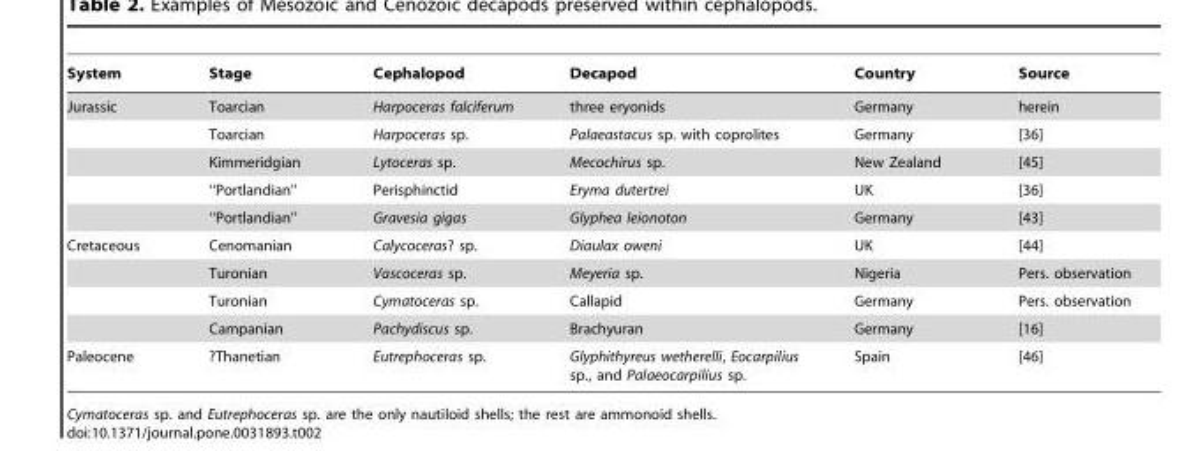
<table><thead><tr><td>System</td><td>Stage</td><td>Cephalopod</td><td>Decapod</td><td>Country</td><td>Source</td></tr></thead><tbody><tr><td rowspan="5">Jurassic</td><td>Toarcian</td><td>Harpoceras falciferum</td><td>three eryonids</td><td>Germany</td><td>herein</td></tr><tr><td>Toarcian</td><td>Harpoceras sp.</td><td>Palaeastacus sp. with coprolites</td><td>Germany</td><td>[36]</td></tr><tr><td>Kimmeridgian</td><td>Lytoceras sp.</td><td>Mecochirus sp.</td><td>New Zealand</td><td>[45]</td></tr><tr><td>‘‘Portlandian’’</td><td>Perisphinctid</td><td>Eryma dutertrei</td><td>UK</td><td>[36]</td></tr><tr><td>‘‘Portlandian’’</td><td>Gravesia gigas</td><td>Glyphea leionoton</td><td>Germany</td><td>[43]</td></tr><tr><td rowspan="4">Cretaceous</td><td>Cenomanian</td><td>Calycoceras? sp.</td><td>Diaulax oweni</td><td>UK</td><td>[44]</td></tr><tr><td>Turonian</td><td>Vascoceras sp.</td><td>Meyeria sp.</td><td>Nigeria</td><td>Pers. observation</td></tr><tr><td>Turonian</td><td>Cymatoceras sp.</td><td>Callapid</td><td>Germany</td><td>Pers. observation</td></tr><tr><td>Campanian</td><td>Pachydiscus sp.</td><td>Brachyuran</td><td>Germany</td><td>[16]</td></tr><tr><td>Paleocene</td><td>?Thanetian</td><td>Eutrephoceras sp.</td><td>Glyphithyreus wetherelli, Eocarpilius sp., and Palaeocarpilius sp.</td><td>Spain</td><td>[46]</td></tr></tbody></table>